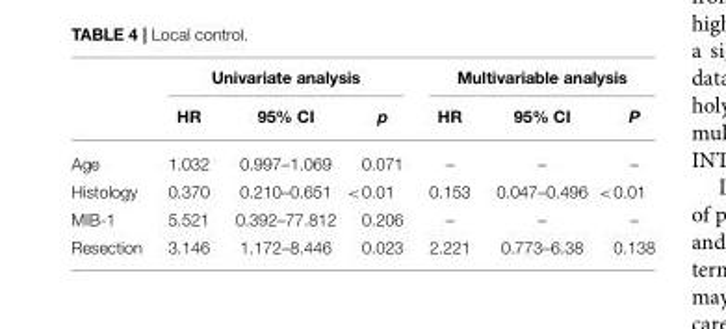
<table><thead><tr><td rowspan="2"></td><td colspan="3">Univariate analysis</td><td colspan="3">Multivariable analysis</td></tr><tr><td>HR</td><td>95% CI</td><td>p</td><td>HR</td><td>95% CI</td><td>P</td></tr></thead><tbody><tr><td>Age</td><td>1.032</td><td>0.997–1.069</td><td>0.071</td><td>–</td><td>–</td><td>–</td></tr><tr><td>Histology</td><td>0.370</td><td>0.210–0.651</td><td>&lt;0.01</td><td>0.153</td><td>0.047–0.496</td><td>&lt;0.01</td></tr><tr><td>MIB-1</td><td>5.521</td><td>0.392–77.812</td><td>0.206</td><td>–</td><td>–</td><td>–</td></tr><tr><td>Resection</td><td>3.146</td><td>1.172–8.446</td><td>0.023</td><td>2.221</td><td>0.773–6.38</td><td>0.138</td></tr></tbody></table>